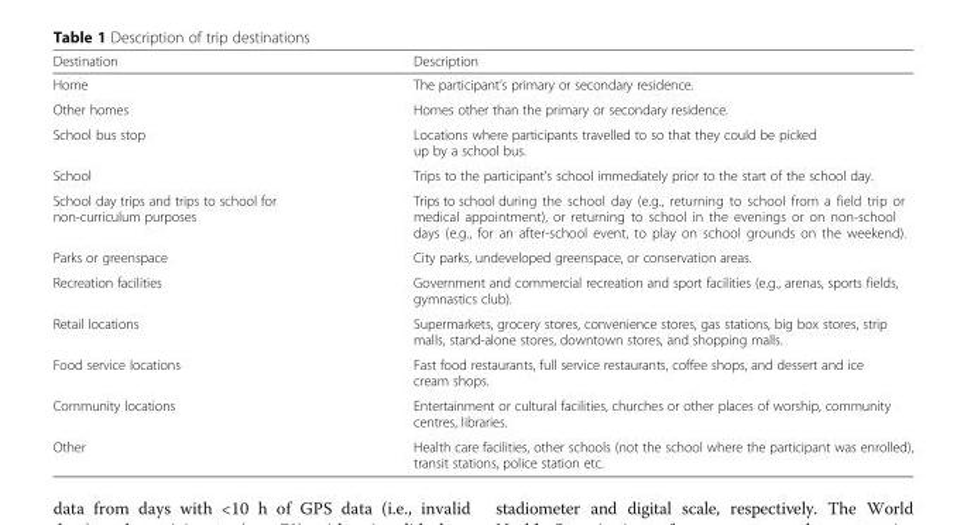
<table><thead><tr><td>Destination</td><td>Description</td></tr></thead><tbody><tr><td>Home</td><td>The participant’s primary or secondary residence.</td></tr><tr><td>Other homes</td><td>Homes other than the primary or secondary residence.</td></tr><tr><td>School bus stop</td><td>Locations where participants travelled to so that they could be picked up by a school bus.</td></tr><tr><td>School</td><td>Trips to the participant’s school immediately prior to the start of the school day.</td></tr><tr><td>School day trips and trips to school for non-curriculum purposes</td><td>Trips to school during the school day (e.g., returning to school from a field trip or medical appointment), or returning to school in the evenings or on non-school days (e.g., for an after-school event, to play on school grounds on the weekend).</td></tr><tr><td>Parks or greenspace</td><td>City parks, undeveloped greenspace, or conservation areas.</td></tr><tr><td>Recreation facilities</td><td>Government and commercial recreation and sport facilities (e.g., arenas, sports fields, gymnastics club).</td></tr><tr><td>Retail locations</td><td>Supermarkets, grocery stores, convenience stores, gas stations, big box stores, strip malls, stand-alone stores, downtown stores, and shopping malls.</td></tr><tr><td>Food service locations</td><td>Fast food restaurants, full service restaurants, coffee shops, and dessert and ice cream shops.</td></tr><tr><td>Community locations</td><td>Entertainment or cultural facilities, churches or other places of worship, community centres, libraries.</td></tr><tr><td>Other</td><td>Health care facilities, other schools (not the school where the participant was enrolled), transit stations, police station etc.</td></tr></tbody></table>